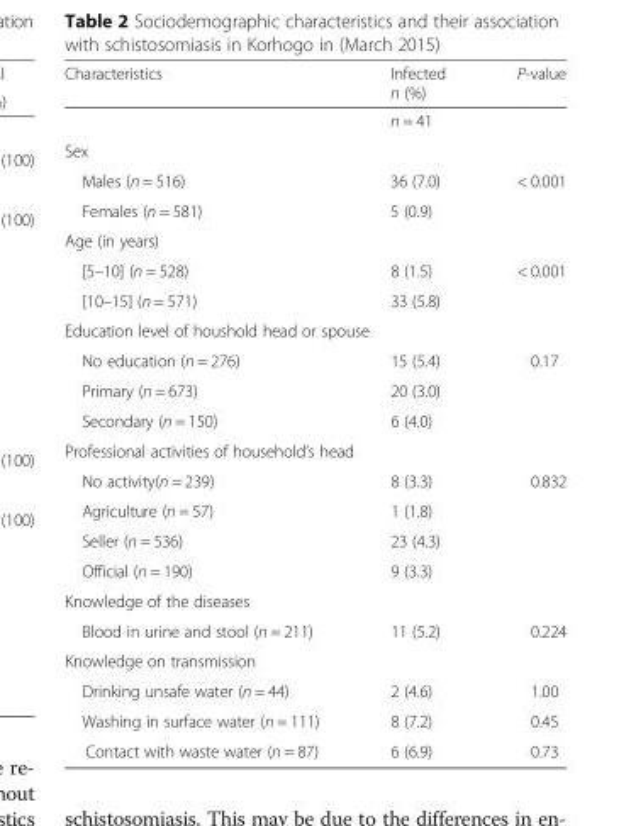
<table><thead><tr><td>Characteristics</td><td>Infected n (%)</td><td>P-value</td></tr></thead><tbody><tr><td></td><td>n = 41</td><td></td></tr><tr><td colspan="3">Sex</td></tr><tr><td>Males (n = 516)</td><td>36 (7.0)</td><td>&lt; 0.001</td></tr><tr><td>Females (n = 581)</td><td>5 (0.9)</td><td></td></tr><tr><td colspan="3">Age (in years)</td></tr><tr><td>[5–10] (n = 528)</td><td>8 (1.5)</td><td>&lt; 0.001</td></tr><tr><td>[10–15] (n = 571)</td><td>33 (5.8)</td><td></td></tr><tr><td colspan="3">Education level of houshold head or spouse</td></tr><tr><td>No education (n = 276)</td><td>15 (5.4)</td><td>0.17</td></tr><tr><td>Primary (n = 673)</td><td>20 (3.0)</td><td></td></tr><tr><td>Secondary (n = 150)</td><td>6 (4.0)</td><td></td></tr><tr><td colspan="3">Professional activities of household’s head</td></tr><tr><td>No activity(n = 239)</td><td>8 (3.3)</td><td>0.832</td></tr><tr><td>Agriculture (n = 57)</td><td>1 (1.8)</td><td></td></tr><tr><td>Seller (n = 536)</td><td>23 (4.3)</td><td></td></tr><tr><td>Official (n = 190)</td><td>9 (3.3)</td><td></td></tr><tr><td colspan="3">Knowledge of the diseases</td></tr><tr><td>Blood in urine and stool (n = 211)</td><td>11 (5.2)</td><td>0.224</td></tr><tr><td colspan="3">Knowledge on transmission</td></tr><tr><td>Drinking unsafe water (n = 44)</td><td>2 (4.6)</td><td>1.00</td></tr><tr><td>Washing in surface water (n = 111)</td><td>8 (7.2)</td><td>0.45</td></tr><tr><td>Contact with waste water (n = 87)</td><td>6 (6.9)</td><td>0.73</td></tr></tbody></table>